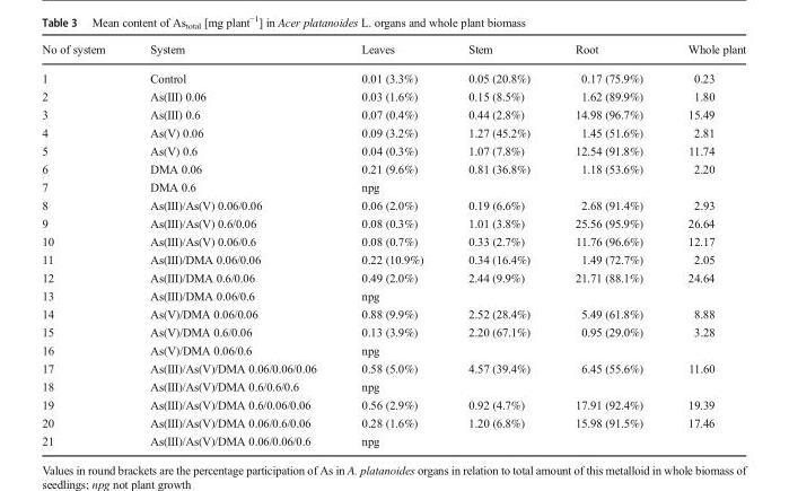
<table><thead><tr><td>No of system</td><td>System</td><td>Leaves</td><td>Stem</td><td>Root</td><td>Whole plant</td></tr></thead><tbody><tr><td>1</td><td>Control</td><td>0.01 (3.3%)</td><td>0.05 (20.8%)</td><td>0.17 (75.9%)</td><td>0.23</td></tr><tr><td>2</td><td>As(III) 0.06</td><td>0.03 (1.6%)</td><td>0.15 (8.5%)</td><td>1.62 (89.9%)</td><td>1.80</td></tr><tr><td>3</td><td>As(III) 0.6</td><td>0.07 (0.4%)</td><td>0.44 (2.8%)</td><td>14.98 (96.7%)</td><td>15.49</td></tr><tr><td>4</td><td>As(V) 0.06</td><td>0.09 (3.2%)</td><td>1.27 (45.2%)</td><td>1.45 (51.6%)</td><td>2.81</td></tr><tr><td>5</td><td>As(V) 0.6</td><td>0.04 (0.3%)</td><td>1.07 (7.8%)</td><td>12.54 (91.8%)</td><td>11.74</td></tr><tr><td>6</td><td>DMA 0.06</td><td>0.21 (9.6%)</td><td>0.81 (36.8%)</td><td>1.18 (53.6%)</td><td>2.20</td></tr><tr><td>7</td><td>DMA 0.6</td><td colspan="4">npg</td></tr><tr><td>8</td><td>As(III)/As(V) 0.06/0.06</td><td>0.06 (2.0%)</td><td>0.19 (6.6%)</td><td>2.68 (91.4%)</td><td>2.93</td></tr><tr><td>9</td><td>As(III)/As(V) 0.6/0.06</td><td>0.08 (0.3%)</td><td>1.01 (3.8%)</td><td>25.56 (95.9%)</td><td>26.64</td></tr><tr><td>10</td><td>As(III)/As(V) 0.06/0.6</td><td>0.08 (0.7%)</td><td>0.33 (2.7%)</td><td>11.76 (96.6%)</td><td>12.17</td></tr><tr><td>11</td><td>As(III)/DMA 0.06/0.06</td><td>0.22 (10.9%)</td><td>0.34 (16.4%)</td><td>1.49 (72.7%)</td><td>2.05</td></tr><tr><td>12</td><td>As(III)/DMA 0.6/0.06</td><td>0.49 (2.0%)</td><td>2.44 (9.9%)</td><td>21.71 (88.1%)</td><td>24.64</td></tr><tr><td>13</td><td>As(III)/DMA 0.06/0.6</td><td colspan="4">npg</td></tr><tr><td>14</td><td>As(V)/DMA 0.06/0.06</td><td>0.88 (9.9%)</td><td>2.52 (28.4%)</td><td>5.49 (61.8%)</td><td>8.88</td></tr><tr><td>15</td><td>As(V)/DMA 0.6/0.06</td><td>0.13 (3.9%)</td><td>2.20 (67.1%)</td><td>0.95 (29.0%)</td><td>3.28</td></tr><tr><td>16</td><td>As(V)/DMA 0.06/0.6</td><td colspan="4">npg</td></tr><tr><td>17</td><td>As(III)/As(V)/DMA 0.06/0.06/0.06</td><td>0.58 (5.0%)</td><td>4.57 (39.4%)</td><td>6.45 (55.6%)</td><td>11.60</td></tr><tr><td>18</td><td>As(III)/As(V)/DMA 0.6/0.6/0.6</td><td colspan="4">npg</td></tr><tr><td>19</td><td>As(III)/As(V)/DMA 0.6/0.06/0.06</td><td>0.56 (2.9%)</td><td>0.92 (4.7%)</td><td>17.91 (92.4%)</td><td>19.39</td></tr><tr><td>20</td><td>As(III)/As(V)/DMA 0.06/0.6/0.06</td><td>0.28 (1.6%)</td><td>1.20 (6.8%)</td><td>15.98 (91.5%)</td><td>17.46</td></tr><tr><td>21</td><td>As(III)/As(V)/DMA 0.06/0.06/0.6</td><td colspan="4">npg</td></tr></tbody></table>